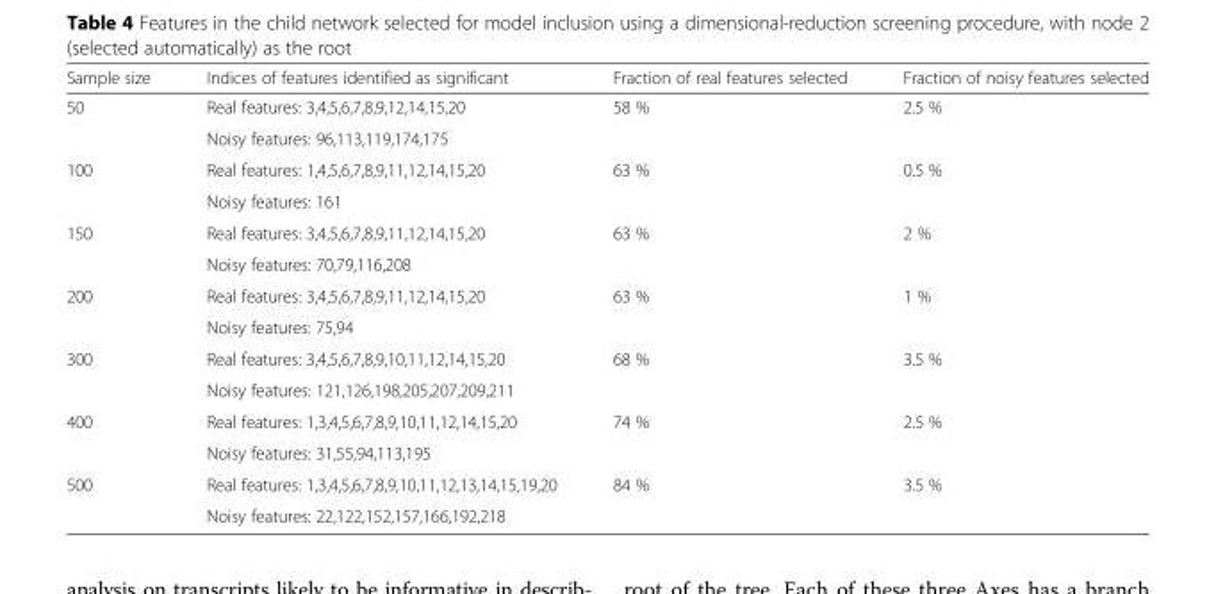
<table><thead><tr><td>Sample size</td><td>Indices of features identified as significant</td><td>Fraction of real features selected</td><td>Fraction of noisy features selected</td></tr></thead><tbody><tr><td rowspan="2">50</td><td>Real features: 3,4,5,6,7,8,9,12,14,15,20</td><td rowspan="2">58 %</td><td rowspan="2">2.5 %</td></tr><tr><td>Noisy features: 96,113,119,174,175</td></tr><tr><td rowspan="2">100</td><td>Real features: 1,4,5,6,7,8,9,11,12,14,15,20</td><td rowspan="2">63 %</td><td rowspan="2">0.5 %</td></tr><tr><td>Noisy features: 161</td></tr><tr><td rowspan="2">150</td><td>Real features: 3,4,5,6,7,8,9,11,12,14,15,20</td><td rowspan="2">63 %</td><td rowspan="2">2 %</td></tr><tr><td>Noisy features: 70,79,116,208</td></tr><tr><td rowspan="2">200</td><td>Real features: 3,4,5,6,7,8,9,11,12,14,15,20</td><td rowspan="2">63 %</td><td rowspan="2">1 %</td></tr><tr><td>Noisy features: 75,94</td></tr><tr><td rowspan="2">300</td><td>Real features: 3,4,5,6,7,8,9,10,11,12,14,15,20</td><td rowspan="2">68 %</td><td rowspan="2">3.5 %</td></tr><tr><td>Noisy features: 121,126,198,205,207,209,211</td></tr><tr><td rowspan="2">400</td><td>Real features: 1,3,4,5,6,7,8,9,10,11,12,14,15,20</td><td rowspan="2">74 %</td><td rowspan="2">2.5 %</td></tr><tr><td>Noisy features: 31,55,94,113,195</td></tr><tr><td rowspan="2">500</td><td>Real features: 1,3,4,5,6,7,8,9,10,11,12,13,14,15,19,20</td><td rowspan="2">84 %</td><td rowspan="2">3.5 %</td></tr><tr><td>Noisy features: 22,122,152,157,166,192,218</td></tr></tbody></table>